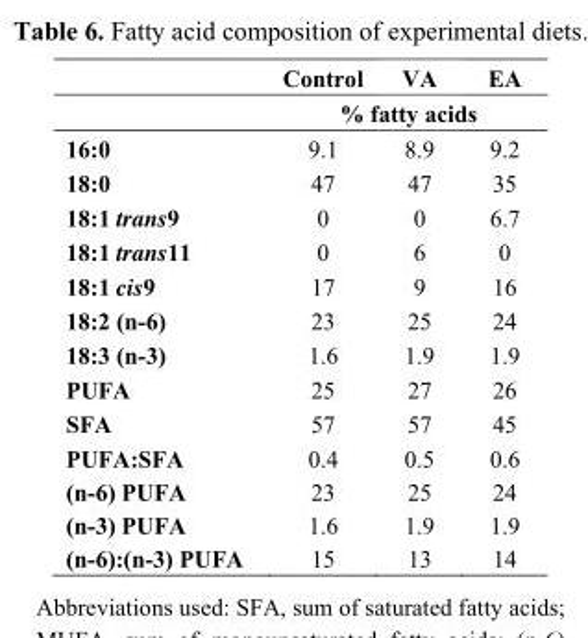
<table><thead><tr><td rowspan="2"></td><td>Control</td><td>VA</td><td>EA</td></tr><tr><td colspan="3">% fatty acids</td></tr></thead><tbody><tr><td>16:0</td><td>9.1</td><td>8.9</td><td>9.2</td></tr><tr><td>18:0</td><td>47</td><td>47</td><td>35</td></tr><tr><td>18:1 trans9</td><td>0</td><td>0</td><td>6.7</td></tr><tr><td>18:1 trans11</td><td>0</td><td>6</td><td>0</td></tr><tr><td>18:1 cis9</td><td>17</td><td>9</td><td>16</td></tr><tr><td>18:2 (n-6)</td><td>23</td><td>25</td><td>24</td></tr><tr><td>18:3 (n-3)</td><td>1.6</td><td>1.9</td><td>1.9</td></tr><tr><td>PUFA</td><td>25</td><td>27</td><td>26</td></tr><tr><td>SFA</td><td>57</td><td>57</td><td>45</td></tr><tr><td>PUFA:SFA</td><td>0.4</td><td>0.5</td><td>0.6</td></tr><tr><td>(n-6) PUFA</td><td>23</td><td>25</td><td>24</td></tr><tr><td>(n-3) PUFA</td><td>1.6</td><td>1.9</td><td>1.9</td></tr><tr><td>(n-6):(n-3) PUFA</td><td>15</td><td>13</td><td>14</td></tr></tbody></table>